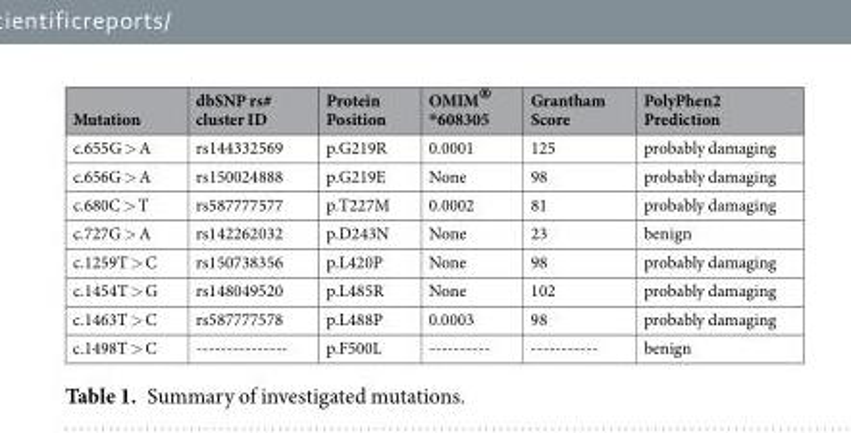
<table><thead><tr><td>Mutation</td><td>dbSNP rs# cluster ID</td><td>Protein Position</td><td>OMIM<sup>®</sup> *608305</td><td>Grantham Score</td><td>PolyPhen2 Prediction</td></tr></thead><tbody><tr><td>c.655G &gt; A</td><td>rs144332569</td><td>p.G219R</td><td>0.0001</td><td>125</td><td>probably damaging</td></tr><tr><td>c.656G &gt; A</td><td>rs150024888</td><td>p.G219E</td><td>None</td><td>98</td><td>probably damaging</td></tr><tr><td>c.680C &gt; T</td><td>rs587777577</td><td>p.T227M</td><td>0.0002</td><td>81</td><td>probably damaging</td></tr><tr><td>c.727G &gt; A</td><td>rs142262032</td><td>p.D243N</td><td>None</td><td>23</td><td>benign</td></tr><tr><td>c.1259T &gt; C</td><td>rs150738356</td><td>p.L420P</td><td>None</td><td>98</td><td>probably damaging</td></tr><tr><td>c.1454T &gt; G</td><td>rs148049520</td><td>p.L485R</td><td>None</td><td>102</td><td>probably damaging</td></tr><tr><td>c.1463T &gt; C</td><td>rs587777578</td><td>p.L488P</td><td>0.0003</td><td>98</td><td>probably damaging</td></tr><tr><td>c.1498T &gt; C</td><td>---------------</td><td>p.F500L</td><td>----------</td><td>-----------</td><td>benign</td></tr></tbody></table>